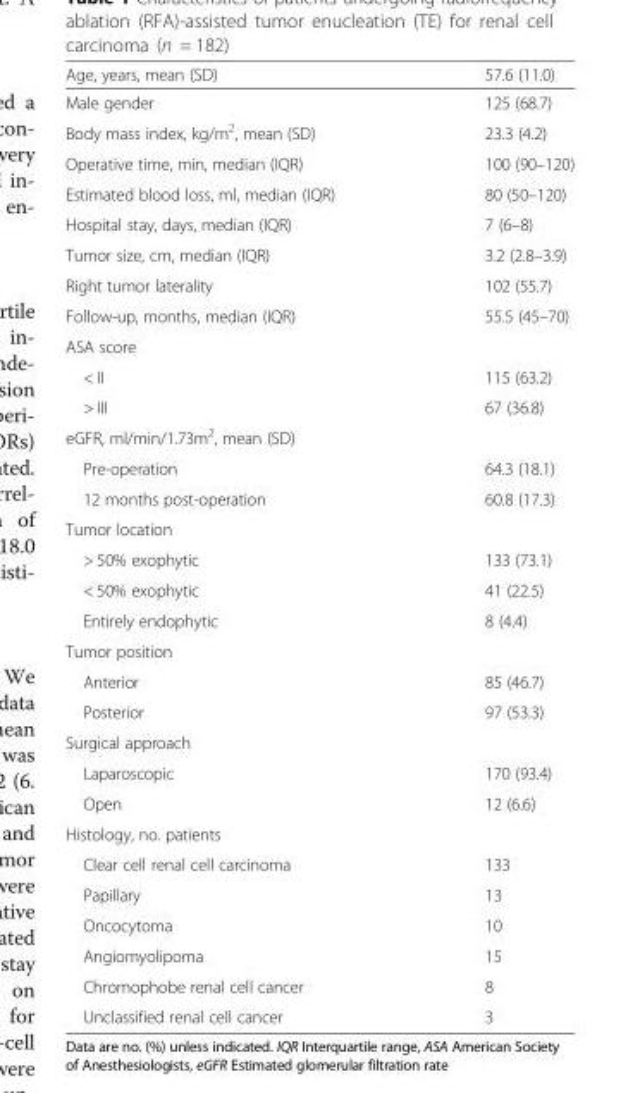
<table><thead><tr><td>Age, years, mean (SD)</td><td>57.6 (11.0)</td></tr></thead><tbody><tr><td>Male gender</td><td>125 (68.7)</td></tr><tr><td>Body mass index, kg/m<sup>2</sup>, mean (SD)</td><td>23.3 (4.2)</td></tr><tr><td>Operative time, min, median (IQR)</td><td>100 (90–120)</td></tr><tr><td>Estimated blood loss, ml, median (IQR)</td><td>80 (50–120)</td></tr><tr><td>Hospital stay, days, median (IQR)</td><td>7 (6–8)</td></tr><tr><td>Tumor size, cm, median (IQR)</td><td>3.2 (2.8–3.9)</td></tr><tr><td>Right tumor laterality</td><td>102 (55.7)</td></tr><tr><td>Follow-up, months, median (IQR)</td><td>55.5 (45–70)</td></tr><tr><td colspan="2">ASA score</td></tr><tr><td>&lt; II</td><td>115 (63.2)</td></tr><tr><td>&gt; III</td><td>67 (36.8)</td></tr><tr><td colspan="2">eGFR, ml/min/1.73m<sup>2</sup>, mean (SD)</td></tr><tr><td>Pre-operation</td><td>64.3 (18.1)</td></tr><tr><td>12 months post-operation</td><td>60.8 (17.3)</td></tr><tr><td colspan="2">Tumor location</td></tr><tr><td>&gt; 50% exophytic</td><td>133 (73.1)</td></tr><tr><td>&lt; 50% exophytic</td><td>41 (22.5)</td></tr><tr><td>Entirely endophytic</td><td>8 (4.4)</td></tr><tr><td colspan="2">Tumor position</td></tr><tr><td>Anterior</td><td>85 (46.7)</td></tr><tr><td>Posterior</td><td>97 (53.3)</td></tr><tr><td colspan="2">Surgical approach</td></tr><tr><td>Laparoscopic</td><td>170 (93.4)</td></tr><tr><td>Open</td><td>12 (6.6)</td></tr><tr><td colspan="2">Histology, no. patients</td></tr><tr><td>Clear cell renal cell carcinoma</td><td>133</td></tr><tr><td>Papillary</td><td>13</td></tr><tr><td>Oncocytoma</td><td>10</td></tr><tr><td>Angiomyolipoma</td><td>15</td></tr><tr><td>Chromophobe renal cell cancer</td><td>8</td></tr><tr><td>Unclassified renal cell cancer</td><td>3</td></tr></tbody></table>